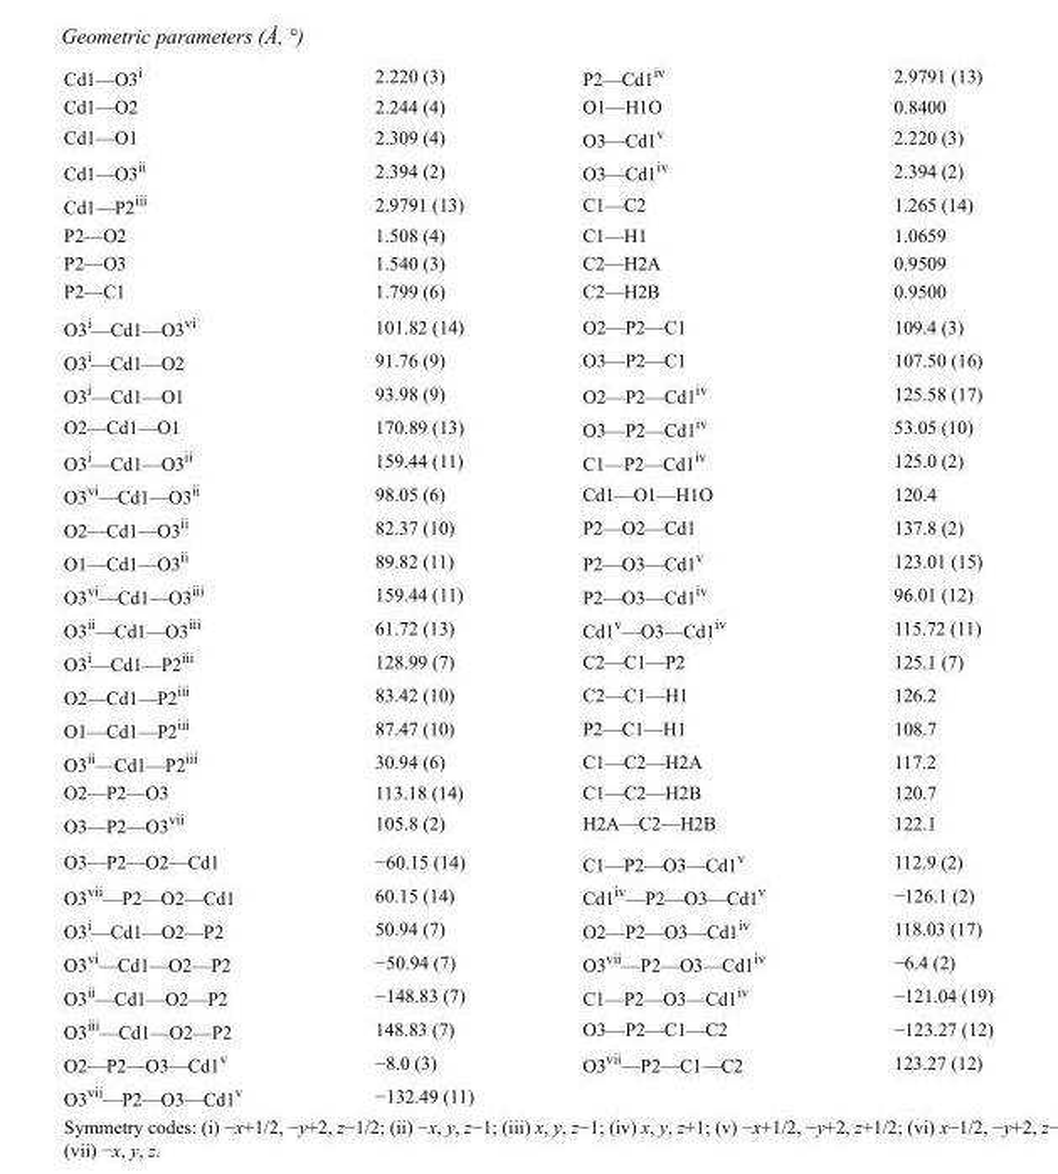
<table><tbody><tr><td>Cd1—O3<sup>i</sup></td><td>2.220 (3)</td><td>P2—Cd1<sup>iv</sup></td><td>2.9791 (13)</td></tr><tr><td>Cd1—O2</td><td>2.244 (4)</td><td>O1—H1O</td><td>0.8400</td></tr><tr><td>Cd1—O1</td><td>2.309 (4)</td><td>O3—Cd1<sup>v</sup></td><td>2.220 (3)</td></tr><tr><td>Cd1—O3<sup>ii</sup></td><td>2.394 (2)</td><td>O3—Cd1<sup>iv</sup></td><td>2.394 (2)</td></tr><tr><td>Cd1—P2<sup>iii</sup></td><td>2.9791 (13)</td><td>C1—C2</td><td>1.265 (14)</td></tr><tr><td>P2—O2</td><td>1.508 (4)</td><td>C1—H1</td><td>1.0659</td></tr><tr><td>P2—O3</td><td>1.540 (3)</td><td>C2—H2A</td><td>0.9509</td></tr><tr><td>P2—C1</td><td>1.799 (6)</td><td>C2—H2B</td><td>0.9500</td></tr><tr><td>O3<sup>i</sup>—Cd1—O3<sup>vi</sup></td><td>101.82 (14)</td><td>O2—P2—C1</td><td>109.4 (3)</td></tr><tr><td>O3<sup>i</sup>—Cd1—O2</td><td>91.76 (9)</td><td>O3—P2—C1</td><td>107.50 (16)</td></tr><tr><td>O3<sup>i</sup>—Cd1—O1</td><td>93.98 (9)</td><td>O2—P2—Cd1<sup>iv</sup></td><td>125.58 (17)</td></tr><tr><td>O2—Cd1—O1</td><td>170.89 (13)</td><td>O3—P2—Cd1<sup>iv</sup></td><td>53.05 (10)</td></tr><tr><td>O3<sup>i</sup>—Cd1—O3<sup>ii</sup></td><td>159.44 (11)</td><td>C1—P2—Cd1<sup>iv</sup></td><td>125.0 (2)</td></tr><tr><td>O3<sup>vi</sup>—Cd1—O3<sup>ii</sup></td><td>98.05 (6)</td><td>Cd1—O1—H1O</td><td>120.4</td></tr><tr><td>O2—Cd1—O3<sup>ii</sup></td><td>82.37 (10)</td><td>P2—O2—Cd1</td><td>137.8 (2)</td></tr><tr><td>O1—Cd1—O3<sup>ii</sup></td><td>89.82 (11)</td><td>P2—O3—Cd1<sup>v</sup></td><td>123.01 (15)</td></tr><tr><td>O3<sup>vi</sup>—Cd1—O3<sup>iii</sup></td><td>159.44 (11)</td><td>P2—O3—Cd1<sup>iv</sup></td><td>96.01 (12)</td></tr><tr><td>O3<sup>ii</sup>—Cd1—O3<sup>iii</sup></td><td>61.72 (13)</td><td>Cd1<sup>v</sup>—O3—Cd1<sup>iv</sup></td><td>115.72 (11)</td></tr><tr><td>O3<sup>i</sup>—Cd1—P2<sup>iii</sup></td><td>128.99 (7)</td><td>C2—C1—P2</td><td>125.1 (7)</td></tr><tr><td>O2—Cd1—P2<sup>iii</sup></td><td>83.42 (10)</td><td>C2—C1—H1</td><td>126.2</td></tr><tr><td>O1—Cd1—P2<sup>iii</sup></td><td>87.47 (10)</td><td>P2—C1—H1</td><td>108.7</td></tr><tr><td>O3<sup>ii</sup>—Cd1—P2<sup>iii</sup></td><td>30.94 (6)</td><td>C1—C2—H2A</td><td>117.2</td></tr><tr><td>O2—P2—O3</td><td>113.18 (14)</td><td>C1—C2—H2B</td><td>120.7</td></tr><tr><td>O3—P2—O3<sup>vii</sup></td><td>105.8 (2)</td><td>H2A—C2—H2B</td><td>122.1</td></tr><tr><td>O3—P2—O2—Cd1</td><td>−60.15 (14)</td><td>C1—P2—O3—Cd1<sup>v</sup></td><td>112.9 (2)</td></tr><tr><td>O3<sup>vii</sup>—P2—O2—Cd1</td><td>60.15 (14)</td><td>Cd1<sup>iv</sup>—P2—O3—Cd1<sup>v</sup></td><td>−126.1 (2)</td></tr><tr><td>O3<sup>i</sup>—Cd1—O2—P2</td><td>50.94 (7)</td><td>O2—P2—O3—Cd1<sup>iv</sup></td><td>118.03 (17)</td></tr><tr><td>O3<sup>vi</sup>—Cd1—O2—P2</td><td>−50.94 (7)</td><td>O3<sup>vii</sup>—P2—O3—Cd1<sup>iv</sup></td><td>−6.4 (2)</td></tr><tr><td>O3<sup>ii</sup>—Cd1—O2—P2</td><td>−148.83 (7)</td><td>C1—P2—O3—Cd1<sup>iv</sup></td><td>−121.04 (19)</td></tr><tr><td>O3<sup>iii</sup>—Cd1—O2—P2</td><td>148.83 (7)</td><td>O3—P2—C1—C2</td><td>−123.27 (12)</td></tr><tr><td>O2—P2—O3—Cd1<sup>v</sup></td><td>−8.0 (3)</td><td>O3<sup>vii</sup>—P2—C1—C2</td><td>123.27 (12)</td></tr><tr><td>O3<sup>vii</sup>—P2—O3—Cd1<sup>v</sup></td><td>−132.49 (11)</td><td></td><td></td></tr></tbody></table>